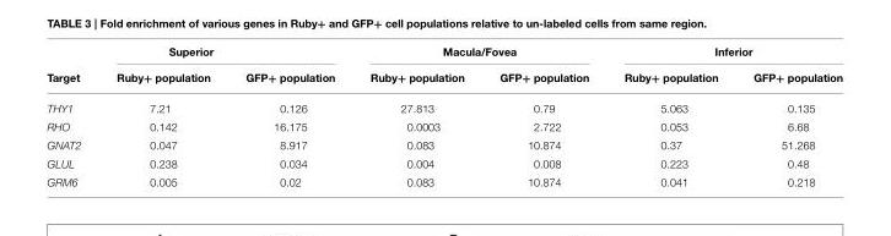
<table><thead><tr><td rowspan="2">Target</td><td colspan="2">Superior</td><td colspan="2">Macula/Fovea</td><td colspan="2">Inferior</td></tr><tr><td>Ruby+ population</td><td>GFP+ population</td><td>Ruby+ population</td><td>GFP+ population</td><td>Ruby+ population</td><td>GFP+ population</td></tr></thead><tbody><tr><td>THY1</td><td>7.21</td><td>0.126</td><td>27.813</td><td>0.79</td><td>5.063</td><td>0.135</td></tr><tr><td>RHO</td><td>0.142</td><td>16.175</td><td>0.0003</td><td>2.722</td><td>0.053</td><td>6.68</td></tr><tr><td>GNAT2</td><td>0.047</td><td>8.917</td><td>0.083</td><td>10.874</td><td>0.37</td><td>51.268</td></tr><tr><td>GLUL</td><td>0.238</td><td>0.034</td><td>0.004</td><td>0.008</td><td>0.223</td><td>0.48</td></tr><tr><td>GRM6</td><td>0.005</td><td>0.02</td><td>0.083</td><td>10.874</td><td>0.041</td><td>0.218</td></tr></tbody></table>